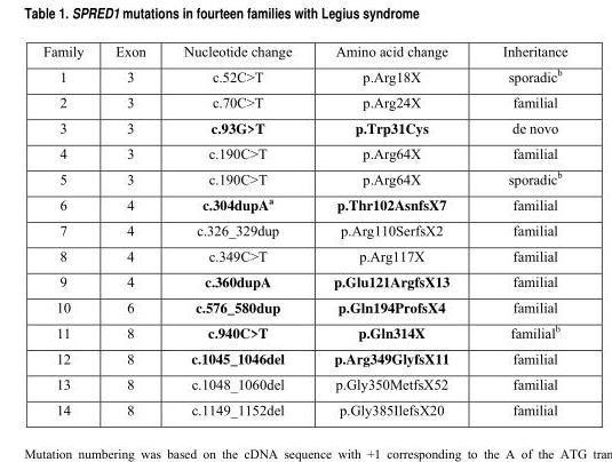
<table><thead><tr><td>Family</td><td>Exon</td><td>Nucleotide change</td><td>Amino acid change</td><td>Inheritance</td></tr></thead><tbody><tr><td>1</td><td>3</td><td>c.52C&gt;T</td><td>p.Arg18X</td><td>sporadic<sup>b</sup></td></tr><tr><td>2</td><td>3</td><td>c.70C&gt;T</td><td>p.Arg24X</td><td>familial</td></tr><tr><td>3</td><td>3</td><td>c.93G&gt;T</td><td>p.Trp31Cys</td><td>de novo</td></tr><tr><td>4</td><td>3</td><td>c.190C&gt;T</td><td>p.Arg64X</td><td>familial</td></tr><tr><td>5</td><td>3</td><td>c.190C&gt;T</td><td>p.Arg64X</td><td>sporadic<sup>b</sup></td></tr><tr><td>6</td><td>4</td><td>c.304dupA<sup>a</sup></td><td>p.Thr102AsnfsX7</td><td>familial</td></tr><tr><td>7</td><td>4</td><td>c.326_329dup</td><td>p.Arg110SerfsX2</td><td>familial</td></tr><tr><td>8</td><td>4</td><td>c.349C&gt;T</td><td>p.Arg117X</td><td>familial</td></tr><tr><td>9</td><td>4</td><td>c.360dupA</td><td>p.Glu121ArgfsX13</td><td>familial</td></tr><tr><td>10</td><td>6</td><td>c.576_580dup</td><td>p.Gln194ProfsX4</td><td>familial</td></tr><tr><td>11</td><td>8</td><td>c.940C&gt;T</td><td>p.Gln314X</td><td>familial<sup>b</sup></td></tr><tr><td>12</td><td>8</td><td>c.1045_1046del</td><td>p.Arg349GlyfsX11</td><td>familial</td></tr><tr><td>13</td><td>8</td><td>c.1048_1060del</td><td>p.Gly350MetfsX52</td><td>familial</td></tr><tr><td>14</td><td>8</td><td>c.1149_1152del</td><td>p.Gly385IlefsX20</td><td>familial</td></tr></tbody></table>